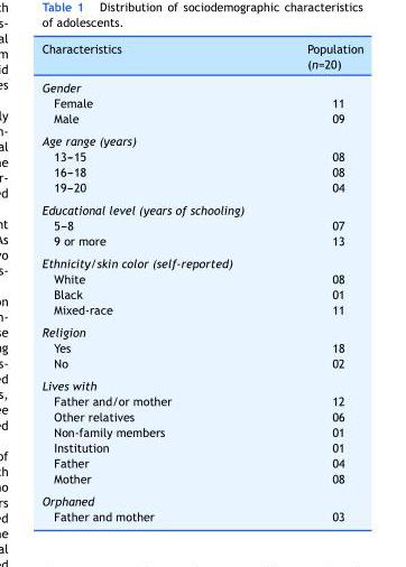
<table><thead><tr><td>Characteristics</td><td>Population (n=20)</td></tr></thead><tbody><tr><td colspan="2">Gender</td></tr><tr><td>Female</td><td>11</td></tr><tr><td>Male</td><td>09</td></tr><tr><td colspan="2">Age range (years)</td></tr><tr><td>13---15</td><td>08</td></tr><tr><td>16---18</td><td>08</td></tr><tr><td>19---20</td><td>04</td></tr><tr><td colspan="2">Educational level (years of schooling)</td></tr><tr><td>5---8</td><td>07</td></tr><tr><td>9 or more</td><td>13</td></tr><tr><td colspan="2">Ethnicity/skin color (self-reported)</td></tr><tr><td>White</td><td>08</td></tr><tr><td>Black</td><td>01</td></tr><tr><td>Mixed-race</td><td>11</td></tr><tr><td colspan="2">Religion</td></tr><tr><td>Yes</td><td>18</td></tr><tr><td>No</td><td>02</td></tr><tr><td colspan="2">Lives with</td></tr><tr><td>Father and/or mother</td><td>12</td></tr><tr><td>Other relatives</td><td>06</td></tr><tr><td>Non-family members</td><td>01</td></tr><tr><td>Institution</td><td>01</td></tr><tr><td>Father</td><td>04</td></tr><tr><td>Mother</td><td>08</td></tr><tr><td colspan="2">Orphaned</td></tr><tr><td>Father and mother</td><td>03</td></tr></tbody></table>